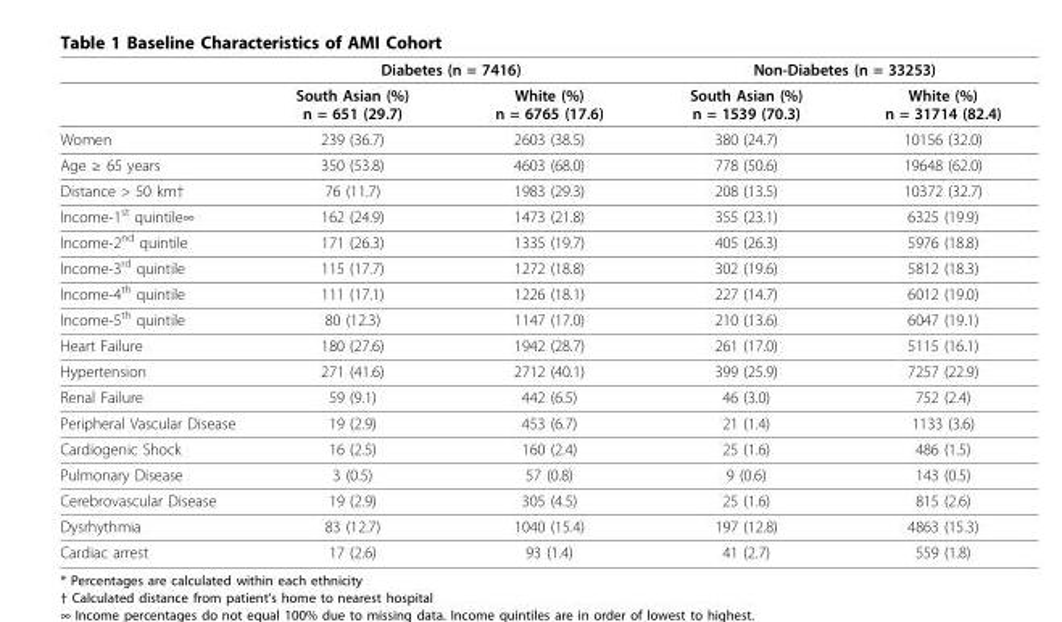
<table><thead><tr><td rowspan="2"></td><td colspan="2">Diabetes (n = 7416)</td><td colspan="2">Non-Diabetes (n = 33253)</td></tr><tr><td>South Asian (%) n = 651 (29.7)</td><td>White (%) n = 6765 (17.6)</td><td>South Asian (%) n = 1539 (70.3)</td><td>White (%) n = 31714 (82.4)</td></tr></thead><tbody><tr><td>Women</td><td>239 (36.7)</td><td>2603 (38.5)</td><td>380 (24.7)</td><td>10156 (32.0)</td></tr><tr><td>Age ≥ 65 years</td><td>350 (53.8)</td><td>4603 (68.0)</td><td>778 (50.6)</td><td>19648 (62.0)</td></tr><tr><td>Distance &gt; 50 km†</td><td>76 (11.7)</td><td>1983 (29.3)</td><td>208 (13.5)</td><td>10372 (32.7)</td></tr><tr><td>Income-1<sup>st</sup> quintile∞</td><td>162 (24.9)</td><td>1473 (21.8)</td><td>355 (23.1)</td><td>6325 (19.9)</td></tr><tr><td>Income-2<sup>nd</sup> quintile</td><td>171 (26.3)</td><td>1335 (19.7)</td><td>405 (26.3)</td><td>5976 (18.8)</td></tr><tr><td>Income-3<sup>rd</sup> quintile</td><td>115 (17.7)</td><td>1272 (18.8)</td><td>302 (19.6)</td><td>5812 (18.3)</td></tr><tr><td>Income-4<sup>th</sup> quintile</td><td>111 (17.1)</td><td>1226 (18.1)</td><td>227 (14.7)</td><td>6012 (19.0)</td></tr><tr><td>Income-5<sup>th</sup> quintile</td><td>80 (12.3)</td><td>1147 (17.0)</td><td>210 (13.6)</td><td>6047 (19.1)</td></tr><tr><td>Heart Failure</td><td>180 (27.6)</td><td>1942 (28.7)</td><td>261 (17.0)</td><td>5115 (16.1)</td></tr><tr><td>Hypertension</td><td>271 (41.6)</td><td>2712 (40.1)</td><td>399 (25.9)</td><td>7257 (22.9)</td></tr><tr><td>Renal Failure</td><td>59 (9.1)</td><td>442 (6.5)</td><td>46 (3.0)</td><td>752 (2.4)</td></tr><tr><td>Peripheral Vascular Disease</td><td>19 (2.9)</td><td>453 (6.7)</td><td>21 (1.4)</td><td>1133 (3.6)</td></tr><tr><td>Cardiogenic Shock</td><td>16 (2.5)</td><td>160 (2.4)</td><td>25 (1.6)</td><td>486 (1.5)</td></tr><tr><td>Pulmonary Disease</td><td>3 (0.5)</td><td>57 (0.8)</td><td>9 (0.6)</td><td>143 (0.5)</td></tr><tr><td>Cerebrovascular Disease</td><td>19 (2.9)</td><td>305 (4.5)</td><td>25 (1.6)</td><td>815 (2.6)</td></tr><tr><td>Dysrhythmia</td><td>83 (12.7)</td><td>1040 (15.4)</td><td>197 (12.8)</td><td>4863 (15.3)</td></tr><tr><td>Cardiac arrest</td><td>17 (2.6)</td><td>93 (1.4)</td><td>41 (2.7)</td><td>559 (1.8)</td></tr></tbody></table>